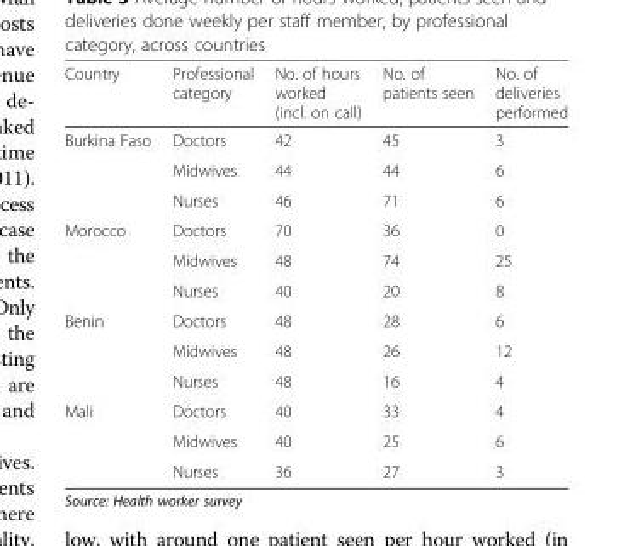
<table><thead><tr><td>Country</td><td>Professional category</td><td>No. of hours worked (incl. on call)</td><td>No. of patients seen</td><td>No. of deliveries performed</td></tr></thead><tbody><tr><td rowspan="3">Burkina Faso</td><td>Doctors</td><td>42</td><td>45</td><td>3</td></tr><tr><td>Midwives</td><td>44</td><td>44</td><td>6</td></tr><tr><td>Nurses</td><td>46</td><td>71</td><td>6</td></tr><tr><td rowspan="3">Morocco</td><td>Doctors</td><td>70</td><td>36</td><td>0</td></tr><tr><td>Midwives</td><td>48</td><td>74</td><td>25</td></tr><tr><td>Nurses</td><td>40</td><td>20</td><td>8</td></tr><tr><td rowspan="3">Benin</td><td>Doctors</td><td>48</td><td>28</td><td>6</td></tr><tr><td>Midwives</td><td>48</td><td>26</td><td>12</td></tr><tr><td>Nurses</td><td>48</td><td>16</td><td>4</td></tr><tr><td rowspan="3">Mali</td><td>Doctors</td><td>40</td><td>33</td><td>4</td></tr><tr><td>Midwives</td><td>40</td><td>25</td><td>6</td></tr><tr><td>Nurses</td><td>36</td><td>27</td><td>3</td></tr></tbody></table>